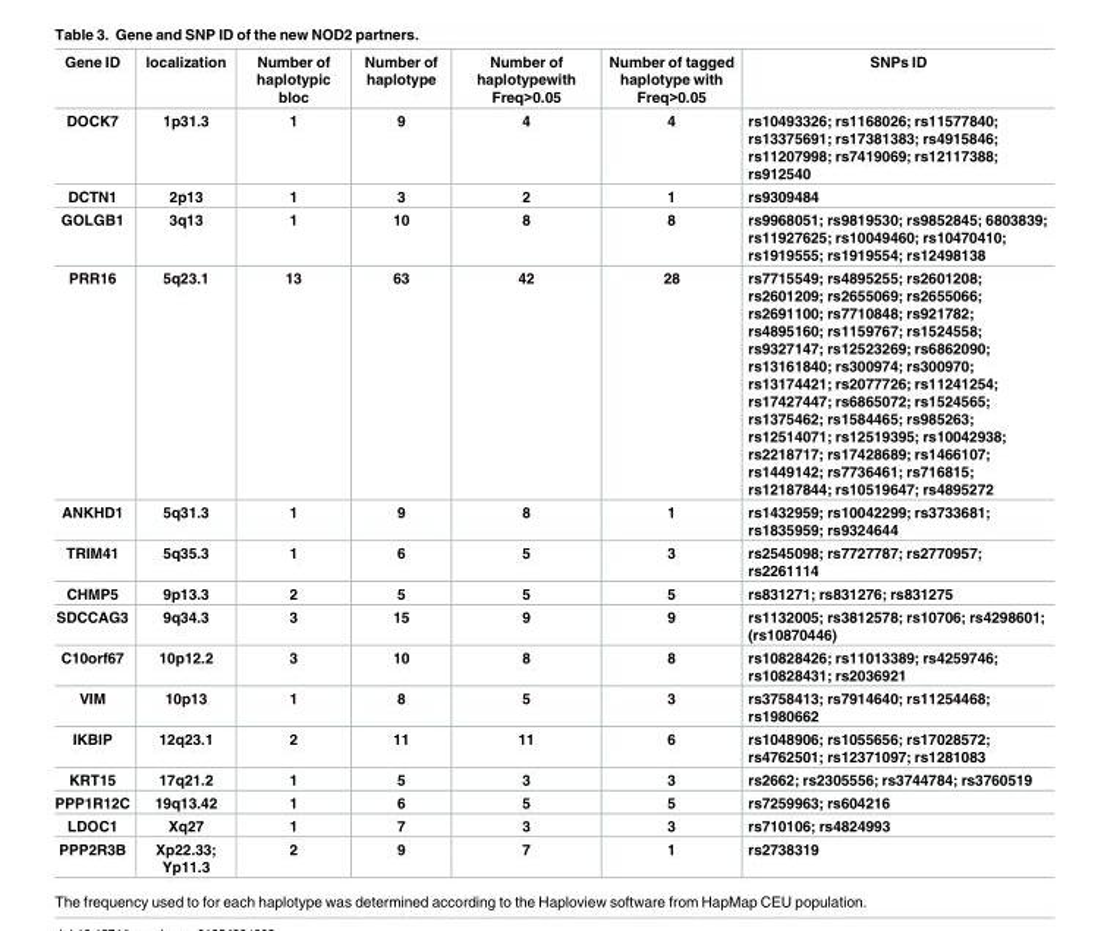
<table><thead><tr><td>Gene ID</td><td>localization</td><td>Number of haplotypic bloc</td><td>Number of haplotype</td><td>Number of haplotypewith Freq&gt;0.05</td><td>Number of tagged haplotype with Freq&gt;0.05</td><td>SNPs ID</td></tr></thead><tbody><tr><td>DOCK7</td><td>1p31.3</td><td>1</td><td>9</td><td>4</td><td>4</td><td>rs10493326; rs1168026; rs11577840; rs13375691; rs17381383; rs4915846; rs11207998; rs7419069; rs12117388; rs912540</td></tr><tr><td>DCTN1</td><td>2p13</td><td>1</td><td>3</td><td>2</td><td>1</td><td>rs9309484</td></tr><tr><td>GOLGB1</td><td>3q13</td><td>1</td><td>10</td><td>8</td><td>8</td><td>rs9968051; rs9819530; rs9852845; 6803839; rs11927625; rs10049460; rs10470410; rs1919555; rs1919554; rs12498138</td></tr><tr><td>PRR16</td><td>5q23.1</td><td>13</td><td>63</td><td>42</td><td>28</td><td>rs7715549; rs4895255; rs2601208; rs2601209; rs2655069; rs2655066; rs2691100; rs7710848; rs921782; rs4895160; rs1159767; rs1524558; rs9327147; rs12523269; rs6862090; rs13161840; rs300974; rs300970; rs13174421; rs2077726; rs11241254; rs17427447; rs6865072; rs1524565; rs1375462; rs1584465; rs985263; rs12514071; rs12519395; rs10042938; rs2218717; rs17428689; rs1466107; rs1449142; rs7736461; rs716815; rs12187844; rs10519647; rs4895272</td></tr><tr><td>ANKHD1</td><td>5q31.3</td><td>1</td><td>9</td><td>8</td><td>1</td><td>rs1432959; rs10042299; rs3733681; rs1835959; rs9324644</td></tr><tr><td>TRIM41</td><td>5q35.3</td><td>1</td><td>6</td><td>5</td><td>3</td><td>rs2545098; rs7727787; rs2770957; rs2261114</td></tr><tr><td>CHMP5</td><td>9p13.3</td><td>2</td><td>5</td><td>5</td><td>5</td><td>rs831271; rs831276; rs831275</td></tr><tr><td>SDCCAG3</td><td>9q34.3</td><td>3</td><td>15</td><td>9</td><td>9</td><td>rs1132005; rs3812578; rs10706; rs4298601; (rs10870446)</td></tr><tr><td>C10orf67</td><td>10p12.2</td><td>3</td><td>10</td><td>8</td><td>8</td><td>rs10828426; rs11013389; rs4259746; rs10828431; rs2036921</td></tr><tr><td>VIM</td><td>10p13</td><td>1</td><td>8</td><td>5</td><td>3</td><td>rs3758413; rs7914640; rs11254468; rs1980662</td></tr><tr><td>IKBIP</td><td>12q23.1</td><td>2</td><td>11</td><td>11</td><td>6</td><td>rs1048906; rs1055656; rs17028572; rs4762501; rs12371097; rs1281083</td></tr><tr><td>KRT15</td><td>17q21.2</td><td>1</td><td>5</td><td>3</td><td>3</td><td>rs2662; rs2305556; rs3744784; rs3760519</td></tr><tr><td>PPP1R12C</td><td>19q13.42</td><td>1</td><td>6</td><td>5</td><td>5</td><td>rs7259963; rs604216</td></tr><tr><td>LDOC1</td><td>Xq27</td><td>1</td><td>7</td><td>3</td><td>3</td><td>rs710106; rs4824993</td></tr><tr><td>PPP2R3B</td><td>Xp22.33; Yp11.3</td><td>2</td><td>9</td><td>7</td><td>1</td><td>rs2738319</td></tr></tbody></table>